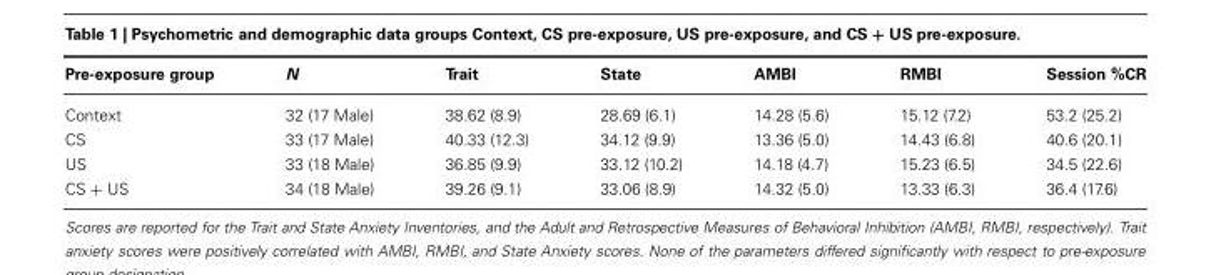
<table><thead><tr><td>Pre-exposure group</td><td>N</td><td>Trait</td><td>State</td><td>AMBI</td><td>RMBI</td><td>Session %CR</td></tr></thead><tbody><tr><td>Context</td><td>32 (17 Male)</td><td>38.62 (8.9)</td><td>28.69 (6.1)</td><td>14.28 (5.6)</td><td>15.12 (7.2)</td><td>53.2 (25.2)</td></tr><tr><td>CS</td><td>33 (17 Male)</td><td>40.33 (12.3)</td><td>34.12 (9.9)</td><td>13.36 (5.0)</td><td>14.43 (6.8)</td><td>40.6 (20.1)</td></tr><tr><td>US</td><td>33 (18 Male)</td><td>36.85 (9.9)</td><td>33.12 (10.2)</td><td>14.18 (4.7)</td><td>15.23 (6.5)</td><td>34.5 (22.6)</td></tr><tr><td>CS + US</td><td>34 (18 Male)</td><td>39.26 (9.1)</td><td>33.06 (8.9)</td><td>14.32 (5.0)</td><td>13.33 (6.3)</td><td>36.4 (17.6)</td></tr></tbody></table>